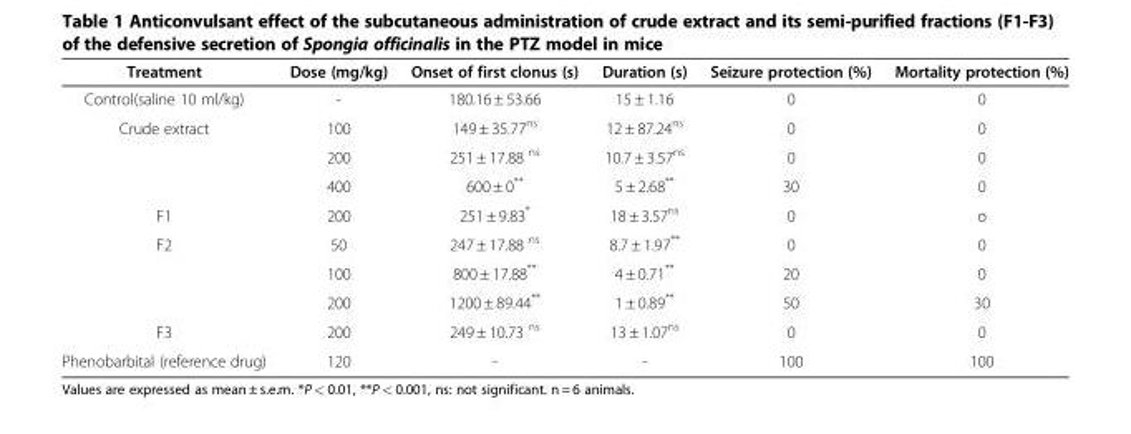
<table><thead><tr><td>Treatment</td><td>Dose (mg/kg)</td><td>Onset of first clonus (s)</td><td>Duration (s)</td><td>Seizure protection (%)</td><td>Mortality protection (%)</td></tr></thead><tbody><tr><td>Control(saline 10 ml/kg)</td><td>-</td><td>180.16 ± 53.66</td><td>15 ± 1.16</td><td>0</td><td>0</td></tr><tr><td rowspan="3">Crude extract</td><td>100</td><td>149 ± 35.77<sup>ns</sup></td><td>12 ± 87.24<sup>ns</sup></td><td>0</td><td>0</td></tr><tr><td>200</td><td>251 ± 17.88 <sup>ns</sup></td><td>10.7 ± 3.57<sup>ns</sup></td><td>0</td><td>0</td></tr><tr><td>400</td><td>600 ± 0**</td><td>5 ± 2.68**</td><td>30</td><td>0</td></tr><tr><td>F1</td><td>200</td><td>251 ± 9.83*</td><td>18 ± 3.57<sup>ns</sup></td><td>0</td><td>o</td></tr><tr><td rowspan="3">F2</td><td>50</td><td>247 ± 17.88 <sup>ns</sup></td><td>8.7 ± 1.97**</td><td>0</td><td>0</td></tr><tr><td>100</td><td>800 ± 17.88**</td><td>4 ± 0.71**</td><td>20</td><td>0</td></tr><tr><td>200</td><td>1200 ± 89.44**</td><td>1 ± 0.89**</td><td>50</td><td>30</td></tr><tr><td>F3</td><td>200</td><td>249 ± 10.73 <sup>ns</sup></td><td>13 ± 1.07<sup>ns</sup></td><td>0</td><td>0</td></tr><tr><td>Phenobarbital (reference drug)</td><td>120</td><td>-</td><td>-</td><td>100</td><td>100</td></tr></tbody></table>